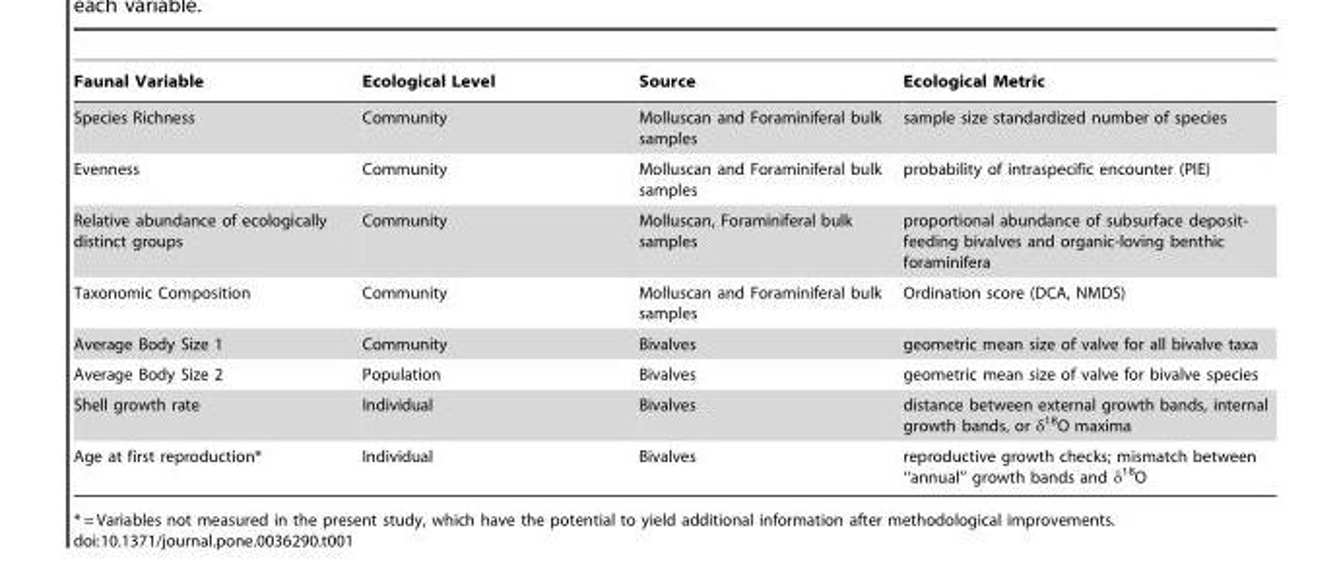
<table><thead><tr><td>Faunal Variable</td><td>Ecological Level</td><td>Source</td><td>Ecological Metric</td></tr></thead><tbody><tr><td>Species Richness</td><td>Community</td><td>Molluscan and Foraminiferal bulk samples</td><td>sample size standardized number of species</td></tr><tr><td>Evenness</td><td>Community</td><td>Molluscan and Foraminiferal bulk samples</td><td>probability of intraspecific encounter (PIE)</td></tr><tr><td>Relative abundance of ecologically distinct groups</td><td>Community</td><td>Molluscan, Foraminiferal bulk samples</td><td>proportional abundance of subsurface deposit- feeding bivalves and organic-loving benthic foraminifera</td></tr><tr><td>Taxonomic Composition</td><td>Community</td><td>Molluscan and Foraminiferal bulk samples</td><td>Ordination score (DCA, NMDS)</td></tr><tr><td>Average Body Size 1</td><td>Community</td><td>Bivalves</td><td>geometric mean size of valve for all bivalve taxa</td></tr><tr><td>Average Body Size 2</td><td>Population</td><td>Bivalves</td><td>geometric mean size of valve for bivalve species</td></tr><tr><td>Shell growth rate</td><td>Individual</td><td>Bivalves</td><td>distance between external growth bands, internal growth bands, or δ<sup>18</sup>O maxima</td></tr><tr><td>Age at first reproduction*</td><td>Individual</td><td>Bivalves</td><td>reproductive growth checks; mismatch between ‘‘annual’’ growth bands and d18O</td></tr></tbody></table>